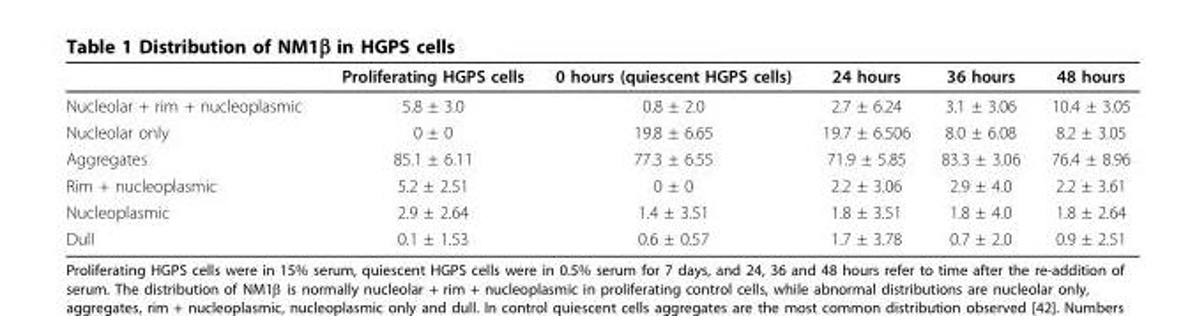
<table><thead><tr><td></td><td>Proliferating HGPS cells</td><td>0 hours (quiescent HGPS cells)</td><td>24 hours</td><td>36 hours</td><td>48 hours</td></tr></thead><tbody><tr><td>Nucleolar + rim + nucleoplasmic</td><td>5.8 ± 3.0</td><td>0.8 ± 2.0</td><td>2.7 ± 6.24</td><td>3.1 ± 3.06</td><td>10.4 ± 3.05</td></tr><tr><td>Nucleolar only</td><td>0 ± 0</td><td>19.8 ± 6.65</td><td>19.7 ± 6.506</td><td>8.0 ± 6.08</td><td>8.2 ± 3.05</td></tr><tr><td>Aggregates</td><td>85.1 ± 6.11</td><td>77.3 ± 6.55</td><td>71.9 ± 5.85</td><td>83.3 ± 3.06</td><td>76.4 ± 8.96</td></tr><tr><td>Rim + nucleoplasmic</td><td>5.2 ± 2.51</td><td>0 ± 0</td><td>2.2 ± 3.06</td><td>2.9 ± 4.0</td><td>2.2 ± 3.61</td></tr><tr><td>Nucleoplasmic</td><td>2.9 ± 2.64</td><td>1.4 ± 3.51</td><td>1.8 ± 3.51</td><td>1.8 ± 4.0</td><td>1.8 ± 2.64</td></tr><tr><td>Dull</td><td>0.1 ± 1.53</td><td>0.6 ± 0.57</td><td>1.7 ± 3.78</td><td>0.7 ± 2.0</td><td>0.9 ± 2.51</td></tr></tbody></table>